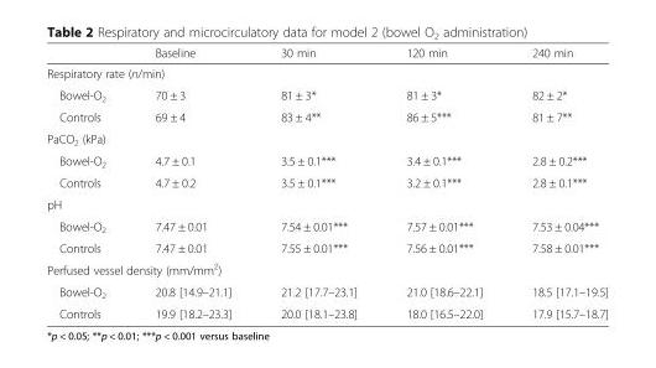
<table><thead><tr><td></td><td>Baseline</td><td>30 min</td><td>120 min</td><td>240 min</td></tr></thead><tbody><tr><td colspan="5">Respiratory rate (n/min)</td></tr><tr><td>Bowel-O<sub>2</sub></td><td>70 ± 3</td><td>81 ± 3*</td><td>81 ± 3*</td><td>82 ± 2*</td></tr><tr><td>Controls</td><td>69 ± 4</td><td>83 ± 4**</td><td>86 ± 5***</td><td>81 ± 7**</td></tr><tr><td colspan="5">PaCO<sub>2</sub> (kPa)</td></tr><tr><td>Bowel-O<sub>2</sub></td><td>4.7 ± 0.1</td><td>3.5 ± 0.1***</td><td>3.4 ± 0.1***</td><td>2.8 ± 0.2***</td></tr><tr><td>Controls</td><td>4.7 ± 0.2</td><td>3.5 ± 0.1***</td><td>3.2 ± 0.1***</td><td>2.8 ± 0.1***</td></tr><tr><td colspan="5">pH</td></tr><tr><td>Bowel-O<sub>2</sub></td><td>7.47 ± 0.01</td><td>7.54 ± 0.01***</td><td>7.57 ± 0.01***</td><td>7.53 ± 0.04***</td></tr><tr><td>Controls</td><td>7.47 ± 0.01</td><td>7.55 ± 0.01***</td><td>7.56 ± 0.01***</td><td>7.58 ± 0.01***</td></tr><tr><td colspan="5">Perfused vessel density (mm/mm<sup>2</sup>)</td></tr><tr><td>Bowel-O<sub>2</sub></td><td>20.8 [14.9–21.1]</td><td>21.2 [17.7–23.1]</td><td>21.0 [18.6–22.1]</td><td>18.5 [17.1–19.5]</td></tr><tr><td>Controls</td><td>19.9 [18.2–23.3]</td><td>20.0 [18.1–23.8]</td><td>18.0 [16.5–22.0]</td><td>17.9 [15.7–18.7]</td></tr></tbody></table>